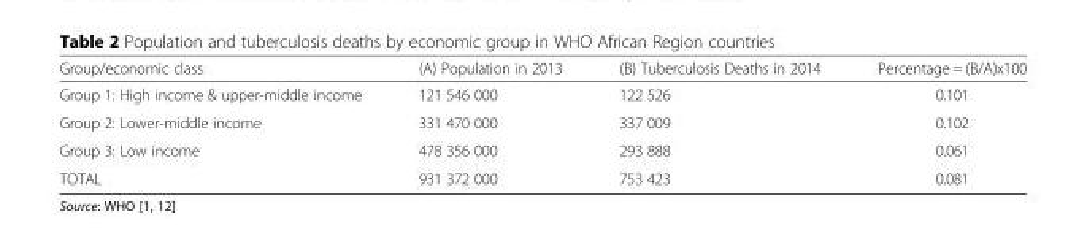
<table><thead><tr><td>Group/economic class</td><td>(A) Population in 2013</td><td>(B) Tuberculosis Deaths in 2014</td><td>Percentage = (B/A)x100</td></tr></thead><tbody><tr><td>Group 1: High income &amp; upper-middle income</td><td>121 546 000</td><td>122 526</td><td>0.101</td></tr><tr><td>Group 2: Lower-middle income</td><td>331 470 000</td><td>337 009</td><td>0.102</td></tr><tr><td>Group 3: Low income</td><td>478 356 000</td><td>293 888</td><td>0.061</td></tr><tr><td>TOTAL</td><td>931 372 000</td><td>753 423</td><td>0.081</td></tr></tbody></table>